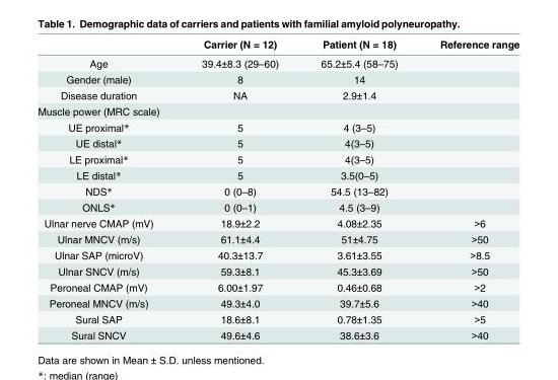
<table><thead><tr><td></td><td>Carrier (N = 12)</td><td>Patient (N = 18)</td><td>Reference range</td></tr></thead><tbody><tr><td>Age</td><td>39.4±8.3 (29–60)</td><td>65.2±5.4 (58–75)</td><td></td></tr><tr><td>Gender (male)</td><td>8</td><td>14</td><td></td></tr><tr><td>Disease duration</td><td>NA</td><td>2.9±1.4</td><td></td></tr><tr><td colspan="4">Muscle power (MRC scale)</td></tr><tr><td>UE proximal*</td><td>5</td><td>4 (3–5)</td><td></td></tr><tr><td>UE distal*</td><td>5</td><td>4(3–5)</td><td></td></tr><tr><td>LE proximal*</td><td>5</td><td>4(3–5)</td><td></td></tr><tr><td>LE distal*</td><td>5</td><td>3.5(0–5)</td><td></td></tr><tr><td>NDS*</td><td>0 (0–8)</td><td>54.5 (13–82)</td><td></td></tr><tr><td>ONLS*</td><td>0 (0–1)</td><td>4.5 (3–9)</td><td></td></tr><tr><td>Ulnar nerve CMAP (mV)</td><td>18.9±2.2</td><td>4.08±2.35</td><td>&gt;6</td></tr><tr><td>Ulnar MNCV (m/s)</td><td>61.1±4.4</td><td>51±4.75</td><td>&gt;50</td></tr><tr><td>Ulnar SAP (microV)</td><td>40.3±13.7</td><td>3.61±3.55</td><td>&gt;8.5</td></tr><tr><td>Ulnar SNCV (m/s)</td><td>59.3±8.1</td><td>45.3±3.69</td><td>&gt;50</td></tr><tr><td>Peroneal CMAP (mV)</td><td>6.00±1.97</td><td>0.46±0.68</td><td>&gt;2</td></tr><tr><td>Peroneal MNCV (m/s)</td><td>49.3±4.0</td><td>39.7±5.6</td><td>&gt;40</td></tr><tr><td>Sural SAP</td><td>18.6±8.1</td><td>0.78±1.35</td><td>&gt;5</td></tr><tr><td>Sural SNCV</td><td>49.6±4.6</td><td>38.6±3.6</td><td>&gt;40</td></tr></tbody></table>